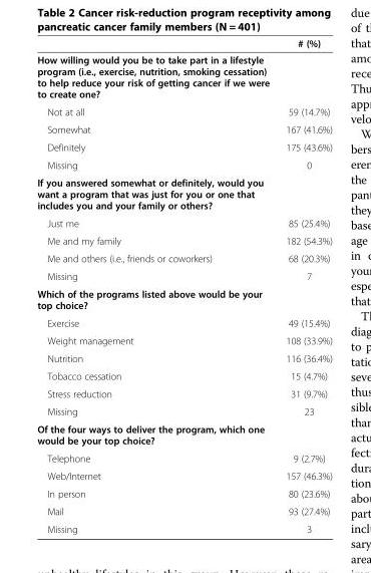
<table><thead><tr><td></td><td># (%)</td></tr></thead><tbody><tr><td colspan="2">How willing would you be to take part in a lifestyle program (i.e., exercise, nutrition, smoking cessation) to help reduce your risk of getting cancer if we were to create one?</td></tr><tr><td>Not at all</td><td>59 (14.7%)</td></tr><tr><td>Somewhat</td><td>167 (41.6%)</td></tr><tr><td>Definitely</td><td>175 (43.6%)</td></tr><tr><td>Missing</td><td>0</td></tr><tr><td colspan="2">If you answered somewhat or definitely, would you want a program that was just for you or one that includes you and your family or others?</td></tr><tr><td>Just me</td><td>85 (25.4%)</td></tr><tr><td>Me and my family</td><td>182 (54.3%)</td></tr><tr><td>Me and others (i.e., friends or coworkers)</td><td>68 (20.3%)</td></tr><tr><td>Missing</td><td>7</td></tr><tr><td colspan="2">Which of the programs listed above would be your top choice?</td></tr><tr><td>Exercise</td><td>49 (15.4%)</td></tr><tr><td>Weight management</td><td>108 (33.9%)</td></tr><tr><td>Nutrition</td><td>116 (36.4%)</td></tr><tr><td>Tobacco cessation</td><td>15 (4.7%)</td></tr><tr><td>Stress reduction</td><td>31 (9.7%)</td></tr><tr><td>Missing</td><td>23</td></tr><tr><td colspan="2">Of the four ways to deliver the program, which one would be your top choice?</td></tr><tr><td>Telephone</td><td>9 (2.7%)</td></tr><tr><td>Web/Internet</td><td>157 (46.3%)</td></tr><tr><td>In person</td><td>80 (23.6%)</td></tr><tr><td>Mail</td><td>93 (27.4%)</td></tr><tr><td>Missing</td><td>3</td></tr></tbody></table>